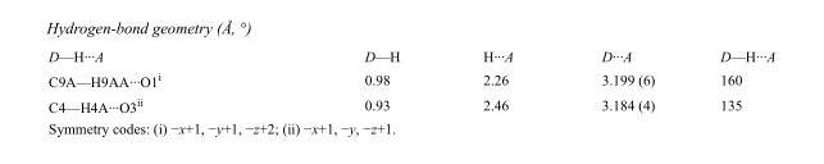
<table><tbody><tr><td>D—H···A</td><td>D—H</td><td>H···A</td><td>D···A</td><td>D—H···A</td></tr><tr><td>C9A—H9AA···O1<sup>i</sup></td><td>0.98</td><td>2.26</td><td>3.199 (6)</td><td>160</td></tr><tr><td>C4—H4A···O3<sup>ii</sup></td><td>0.93</td><td>2.46</td><td>3.184 (4)</td><td>135</td></tr></tbody></table>